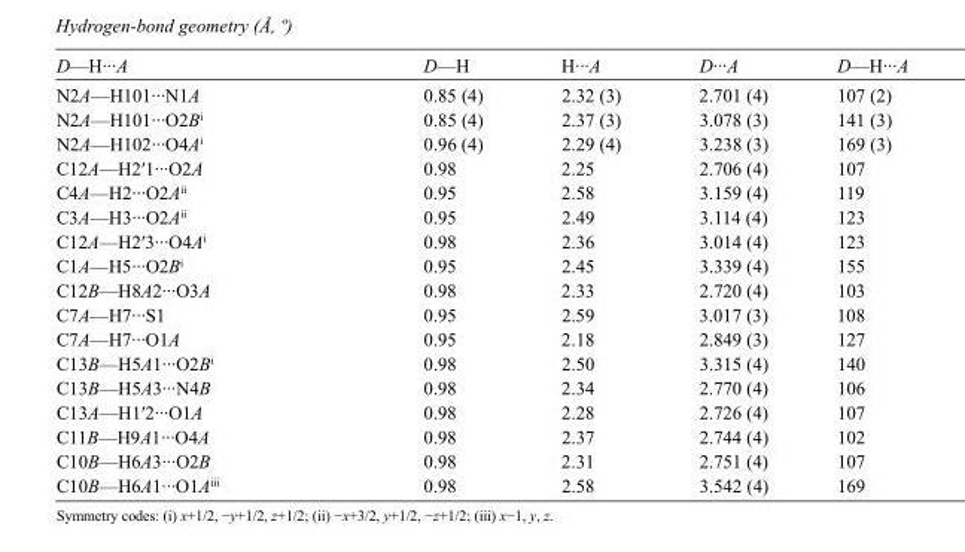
<table><tbody><tr><td>D—H···A</td><td>D—H</td><td>H···A</td><td>D···A</td><td>D—H···A</td></tr><tr><td>N2A—H101···N1A</td><td>0.85 (4)</td><td>2.32 (3)</td><td>2.701 (4)</td><td>107 (2)</td></tr><tr><td>N2A—H101···O2B<sup>i</sup></td><td>0.85 (4)</td><td>2.37 (3)</td><td>3.078 (3)</td><td>141 (3)</td></tr><tr><td>N2A—H102···O4A<sup>i</sup></td><td>0.96 (4)</td><td>2.29 (4)</td><td>3.238 (3)</td><td>169 (3)</td></tr><tr><td>C12A—H2′1···O2A</td><td>0.98</td><td>2.25</td><td>2.706 (4)</td><td>107</td></tr><tr><td>C4A—H2···O2A<sup>ii</sup></td><td>0.95</td><td>2.58</td><td>3.159 (4)</td><td>119</td></tr><tr><td>C3A—H3···O2A<sup>ii</sup></td><td>0.95</td><td>2.49</td><td>3.114 (4)</td><td>123</td></tr><tr><td>C12A—H2′3···O4A<sup>i</sup></td><td>0.98</td><td>2.36</td><td>3.014 (4)</td><td>123</td></tr><tr><td>C1A—H5···O2B<sup>i</sup></td><td>0.95</td><td>2.45</td><td>3.339 (4)</td><td>155</td></tr><tr><td>C12B—H8A2···O3A</td><td>0.98</td><td>2.33</td><td>2.720 (4)</td><td>103</td></tr><tr><td>C7A—H7···S1</td><td>0.95</td><td>2.59</td><td>3.017 (3)</td><td>108</td></tr><tr><td>C7A—H7···O1A</td><td>0.95</td><td>2.18</td><td>2.849 (3)</td><td>127</td></tr><tr><td>C13B—H5A1···O2B<sup>i</sup></td><td>0.98</td><td>2.50</td><td>3.315 (4)</td><td>140</td></tr><tr><td>C13B—H5A3···N4B</td><td>0.98</td><td>2.34</td><td>2.770 (4)</td><td>106</td></tr><tr><td>C13A—H1′2···O1A</td><td>0.98</td><td>2.28</td><td>2.726 (4)</td><td>107</td></tr><tr><td>C11B—H9A1···O4A</td><td>0.98</td><td>2.37</td><td>2.744 (4)</td><td>102</td></tr><tr><td>C10B—H6A3···O2B</td><td>0.98</td><td>2.31</td><td>2.751 (4)</td><td>107</td></tr><tr><td>C10B—H6A1···O1A<sup>iii</sup></td><td>0.98</td><td>2.58</td><td>3.542 (4)</td><td>169</td></tr></tbody></table>